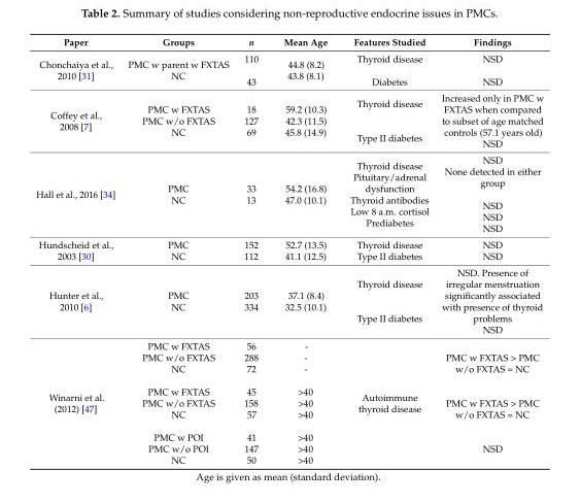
<table><thead><tr><td>Paper</td><td>Groups</td><td>n</td><td>Mean Age</td><td>Features Studied</td><td>Findings</td></tr></thead><tbody><tr><td>Chonchaiya et al., 2010 [31]</td><td>PMC w parent w FXTAS NC</td><td>110 43</td><td>44.8 (8.2) 43.8 (8.1)</td><td>Thyroid disease Diabetes</td><td>NSD NSD</td></tr><tr><td>Coffey et al., 2008 [7]</td><td>PMC w FXTAS PMC w/o FXTAS NC</td><td>18 127 69</td><td>59.2 (10.3) 42.3 (11.5) 45.8 (14.9)</td><td>Thyroid disease Type II diabetes</td><td>Increased only in PMC w FXTAS when compared to subset of age matched controls (57.1 years old) NSD</td></tr><tr><td>Hall et al., 2016 [34]</td><td>PMC NC</td><td>33 13</td><td>54.2 (16.8) 47.0 (10.1)</td><td>Thyroid disease Pituitary/adrenal dysfunction Thyroid antibodies Low 8 a.m. cortisol Prediabetes</td><td>NSD None detected in either group NSD NSD NSD</td></tr><tr><td>Hundscheid et al., 2003 [30]</td><td>PMC NC</td><td>152 112</td><td>52.7 (13.5) 41.1 (12.5)</td><td>Thyroid disease Type II diabetes</td><td>NSD NSD</td></tr><tr><td>Hunter et al., 2010 [6]</td><td>PMC NC</td><td>203 334</td><td>37.1 (8.4) 32.5 (10.1)</td><td>Thyroid disease Type II diabetes</td><td>NSD. Presence of irregular menstruation significantly associated with presence of thyroid problems NSD</td></tr><tr><td>Winarni et al. (2012) [47]</td><td>PMC w FXTAS PMC w/o FXTAS NC PMC w FXTAS PMC w/o FXTAS NC PMC w POI PMC w/o POI NC</td><td>56 288 72 45 158 57 41 147 50</td><td>- - - &gt;40 &gt;40 &gt;40 &gt;40 &gt;40 &gt;40</td><td>Autoimmune thyroid disease</td><td>PMC w FXTAS &gt; PMC w/o FXTAS = NC PMC w FXTAS &gt; PMC w/o FXTAS = NC NSD</td></tr></tbody></table>